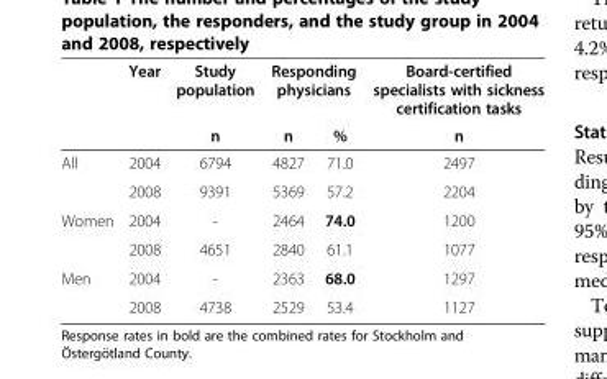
<table><thead><tr><td rowspan="2"></td><td rowspan="2">Year</td><td rowspan="2">Study population n</td><td colspan="2">Responding physicians</td><td rowspan="2">Board-certified specialists with sickness certification tasks n</td></tr><tr><td>n</td><td>%</td></tr></thead><tbody><tr><td rowspan="2">All</td><td>2004</td><td>6794</td><td>4827</td><td>71.0</td><td>2497</td></tr><tr><td>2008</td><td>9391</td><td>5369</td><td>57.2</td><td>2204</td></tr><tr><td rowspan="2">Women</td><td>2004</td><td>-</td><td>2464</td><td>74.0</td><td>1200</td></tr><tr><td>2008</td><td>4651</td><td>2840</td><td>61.1</td><td>1077</td></tr><tr><td rowspan="2">Men</td><td>2004</td><td>-</td><td>2363</td><td>68.0</td><td>1297</td></tr><tr><td>2008</td><td>4738</td><td>2529</td><td>53.4</td><td>1127</td></tr></tbody></table>